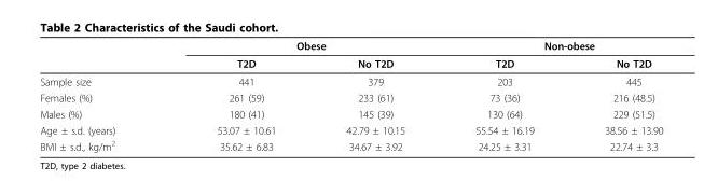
<table><thead><tr><td rowspan="2"></td><td colspan="2">Obese</td><td colspan="2">Non-obese</td></tr><tr><td>T2D</td><td>No T2D</td><td>T2D</td><td>No T2D</td></tr></thead><tbody><tr><td>Sample size</td><td>441</td><td>379</td><td>203</td><td>445</td></tr><tr><td>Females (%)</td><td>261 (59)</td><td>233 (61)</td><td>73 (36)</td><td>216 (48.5)</td></tr><tr><td>Males (%)</td><td>180 (41)</td><td>145 (39)</td><td>130 (64)</td><td>229 (51.5)</td></tr><tr><td>Age ± s.d. (years)</td><td>53.07 ± 10.61</td><td>42.79 ± 10.15</td><td>55.54 ± 16.19</td><td>38.56 ± 13.90</td></tr><tr><td>BMI ± s.d., kg/m<sup>2</sup></td><td>35.62 ± 6.83</td><td>34.67 ± 3.92</td><td>24.25 ± 3.31</td><td>22.74 ± 3.3</td></tr></tbody></table>